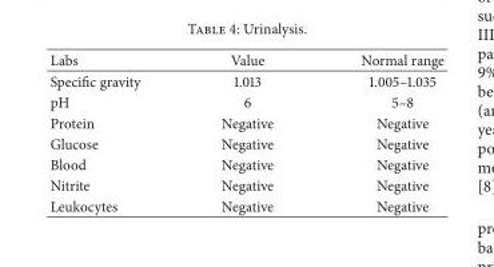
<table><thead><tr><td>Labs</td><td>Value</td><td>Normal range</td></tr></thead><tbody><tr><td>Specific gravity</td><td>1.013</td><td>1.005–1.035</td></tr><tr><td>pH</td><td>6</td><td>5–8</td></tr><tr><td>Protein</td><td>Negative</td><td>Negative</td></tr><tr><td>Glucose</td><td>Negative</td><td>Negative</td></tr><tr><td>Blood</td><td>Negative</td><td>Negative</td></tr><tr><td>Nitrite</td><td>Negative</td><td>Negative</td></tr><tr><td>Leukocytes</td><td>Negative</td><td>Negative</td></tr></tbody></table>